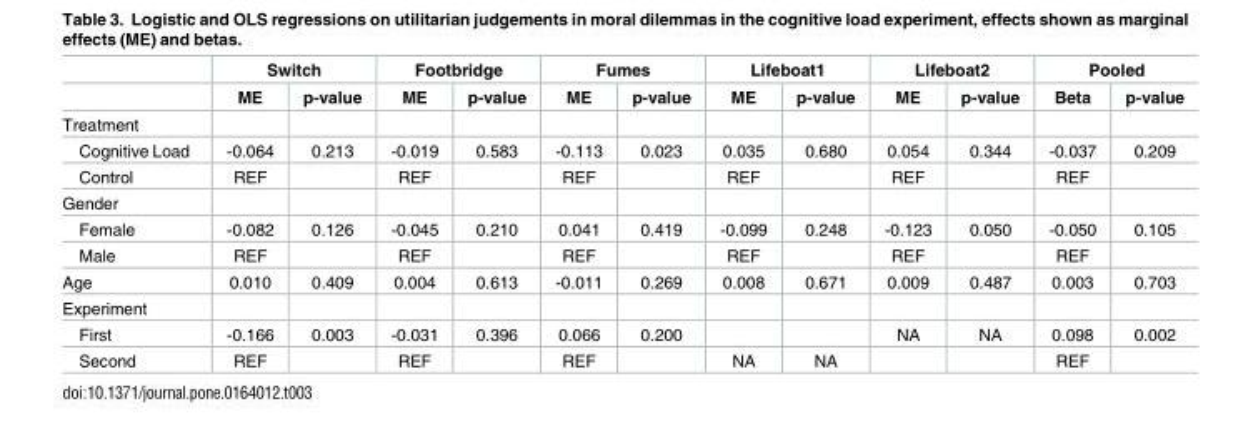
<table><thead><tr><td rowspan="2"></td><td colspan="2">Switch</td><td colspan="2">Footbridge</td><td colspan="2">Fumes</td><td colspan="2">Lifeboat1</td><td colspan="2">Lifeboat2</td><td colspan="2">Pooled</td></tr><tr><td>ME</td><td>p-value</td><td>ME</td><td>p-value</td><td>ME</td><td>p-value</td><td>ME</td><td>p-value</td><td>ME</td><td>p-value</td><td>Beta</td><td>p-value</td></tr></thead><tbody><tr><td colspan="13">Treatment</td></tr><tr><td>Cognitive Load</td><td>-0.064</td><td>0.213</td><td>-0.019</td><td>0.583</td><td>-0.113</td><td>0.023</td><td>0.035</td><td>0.680</td><td>0.054</td><td>0.344</td><td>-0.037</td><td>0.209</td></tr><tr><td>Control</td><td>REF</td><td></td><td>REF</td><td></td><td>REF</td><td></td><td>REF</td><td></td><td>REF</td><td></td><td>REF</td><td></td></tr><tr><td colspan="13">Gender</td></tr><tr><td>Female</td><td>-0.082</td><td>0.126</td><td>-0.045</td><td>0.210</td><td>0.041</td><td>0.419</td><td>-0.099</td><td>0.248</td><td>-0.123</td><td>0.050</td><td>-0.050</td><td>0.105</td></tr><tr><td>Male</td><td>REF</td><td></td><td>REF</td><td></td><td>REF</td><td></td><td>REF</td><td></td><td>REF</td><td></td><td>REF</td><td></td></tr><tr><td>Age</td><td>0.010</td><td>0.409</td><td>0.004</td><td>0.613</td><td>-0.011</td><td>0.269</td><td>0.008</td><td>0.671</td><td>0.009</td><td>0.487</td><td>0.003</td><td>0.703</td></tr><tr><td colspan="13">Experiment</td></tr><tr><td>First</td><td>-0.166</td><td>0.003</td><td>-0.031</td><td>0.396</td><td>0.066</td><td>0.200</td><td></td><td></td><td>NA</td><td>NA</td><td>0.098</td><td>0.002</td></tr><tr><td>Second</td><td>REF</td><td></td><td>REF</td><td></td><td>REF</td><td></td><td>NA</td><td>NA</td><td></td><td></td><td>REF</td><td></td></tr></tbody></table>